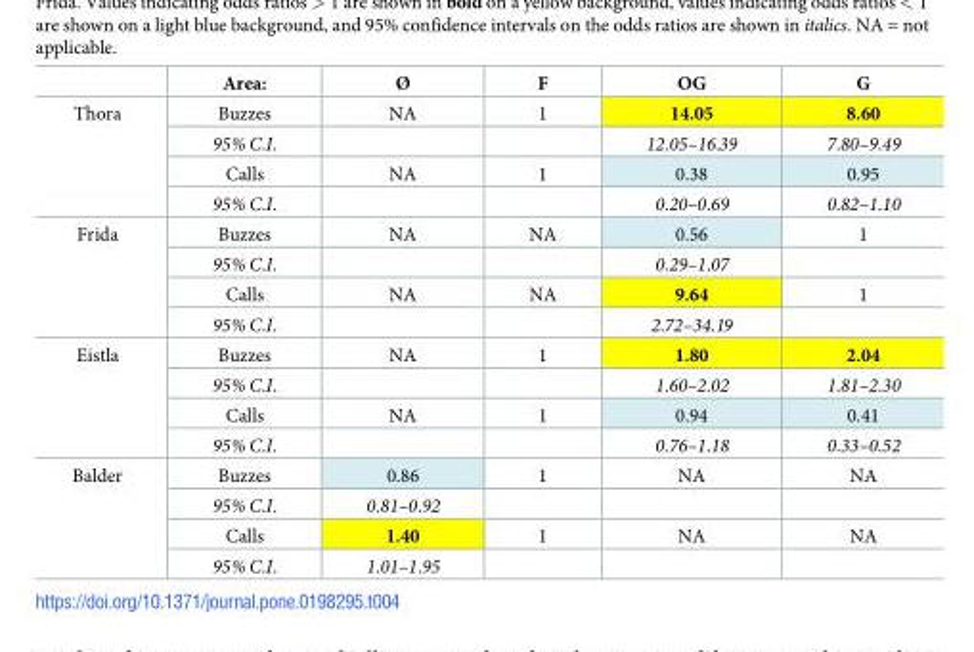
<table><thead><tr><td></td><td>Area:</td><td>Ø</td><td>F</td><td>OG</td><td>G</td></tr></thead><tbody><tr><td rowspan="4">Thora</td><td>Buzzes</td><td>NA</td><td>1</td><td>14.05</td><td>8.60</td></tr><tr><td>95% C.I.</td><td></td><td></td><td>12.05–16.39</td><td>7.80–9.49</td></tr><tr><td>Calls</td><td>NA</td><td>1</td><td>0.38</td><td>0.95</td></tr><tr><td>95% C.I.</td><td></td><td></td><td>0.20–0.69</td><td>0.82–1.10</td></tr><tr><td rowspan="4">Frida</td><td>Buzzes</td><td>NA</td><td>NA</td><td>0.56</td><td>1</td></tr><tr><td>95% C.I.</td><td></td><td></td><td>0.29–1.07</td><td></td></tr><tr><td>Calls</td><td>NA</td><td>NA</td><td>9.64</td><td>1</td></tr><tr><td>95% C.I.</td><td></td><td></td><td>2.72–34.19</td><td></td></tr><tr><td rowspan="4">Eistla</td><td>Buzzes</td><td>NA</td><td>1</td><td>1.80</td><td>2.04</td></tr><tr><td>95% C.I.</td><td></td><td></td><td>1.60–2.02</td><td>1.81–2.30</td></tr><tr><td>Calls</td><td>NA</td><td>1</td><td>0.94</td><td>0.41</td></tr><tr><td>95% C.I.</td><td></td><td></td><td>0.76–1.18</td><td>0.33–0.52</td></tr><tr><td rowspan="4">Balder</td><td>Buzzes</td><td>0.86</td><td>1</td><td>NA</td><td>NA</td></tr><tr><td>95% C.I.</td><td>0.81–0.92</td><td></td><td></td><td></td></tr><tr><td>Calls</td><td>1.40</td><td>1</td><td>NA</td><td>NA</td></tr><tr><td>95% C.I.</td><td>1.01–1.95</td><td></td><td></td><td></td></tr></tbody></table>